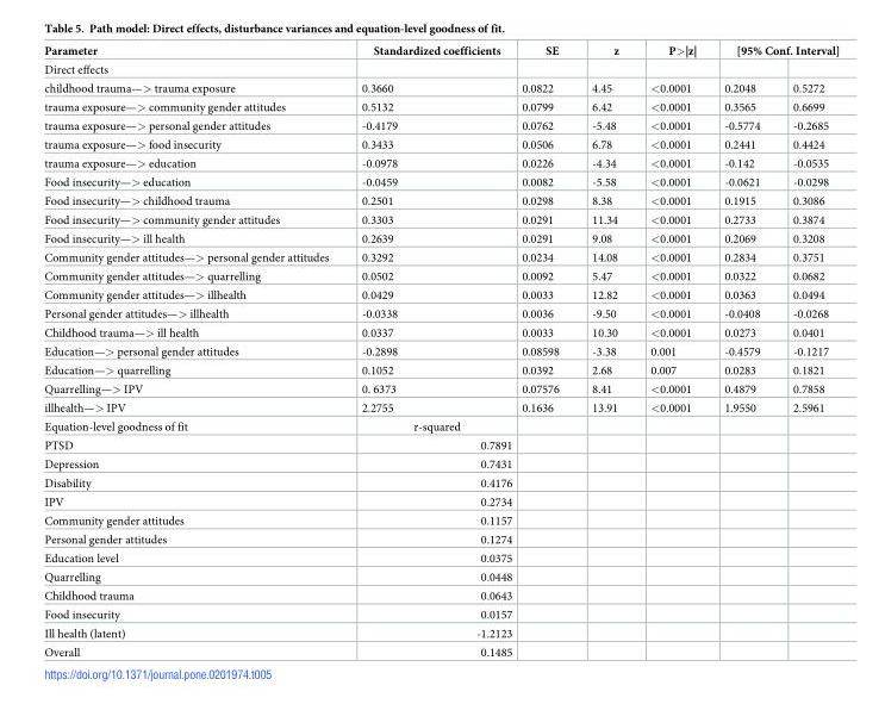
<table><thead><tr><td rowspan="2">Parameter Direct effects</td><td rowspan="2">Standardized coefficients</td><td rowspan="2">SE</td><td rowspan="2">z</td><td rowspan="2">P&gt;|z|</td><td colspan="2">[95% Conf. Interval]</td></tr><tr><td></td><td></td></tr></thead><tbody><tr><td>childhood trauma—&gt; trauma exposure</td><td>0.3660</td><td>0.0822</td><td>4.45</td><td>&lt;0.0001</td><td>0.2048</td><td>0.5272</td></tr><tr><td>trauma exposure—&gt; community gender attitudes</td><td>0.5132</td><td>0.0799</td><td>6.42</td><td>&lt;0.0001</td><td>0.3565</td><td>0.6699</td></tr><tr><td>trauma exposure—&gt; personal gender attitudes</td><td>-0.4179</td><td>0.0762</td><td>-5.48</td><td>&lt;0.0001</td><td>-0.5774</td><td>-0.2685</td></tr><tr><td>trauma exposure—&gt; food insecurity</td><td>0.3433</td><td>0.0506</td><td>6.78</td><td>&lt;0.0001</td><td>0.2441</td><td>0.4424</td></tr><tr><td>trauma exposure—&gt; education</td><td>-0.0978</td><td>0.0226</td><td>-4.34</td><td>&lt;0.0001</td><td>-0.142</td><td>-0.0535</td></tr><tr><td>Food insecurity—&gt; education</td><td>-0.0459</td><td>0.0082</td><td>-5.58</td><td>&lt;0.0001</td><td>-0.0621</td><td>-0.0298</td></tr><tr><td>Food insecurity—&gt; childhood trauma</td><td>0.2501</td><td>0.0298</td><td>8.38</td><td>&lt;0.0001</td><td>0.1915</td><td>0.3086</td></tr><tr><td>Food insecurity—&gt; community gender attitudes</td><td>0.3303</td><td>0.0291</td><td>11.34</td><td>&lt;0.0001</td><td>0.2733</td><td>0.3874</td></tr><tr><td>Food insecurity—&gt; ill health</td><td>0.2639</td><td>0.0291</td><td>9.08</td><td>&lt;0.0001</td><td>0.2069</td><td>0.3208</td></tr><tr><td>Community gender attitudes—&gt; personal gender attitudes</td><td>0.3292</td><td>0.0234</td><td>14.08</td><td>&lt;0.0001</td><td>0.2834</td><td>0.3751</td></tr><tr><td>Community gender attitudes—&gt; quarrelling</td><td>0.0502</td><td>0.0092</td><td>5.47</td><td>&lt;0.0001</td><td>0.0322</td><td>0.0682</td></tr><tr><td>Community gender attitudes—&gt; illhealth</td><td>0.0429</td><td>0.0033</td><td>12.82</td><td>&lt;0.0001</td><td>0.0363</td><td>0.0494</td></tr><tr><td>Personal gender attitudes—&gt; illhealth</td><td>-0.0338</td><td>0.0036</td><td>-9.50</td><td>&lt;0.0001</td><td>-0.0408</td><td>-0.0268</td></tr><tr><td>Childhood trauma—&gt; ill health</td><td>0.0337</td><td>0.0033</td><td>10.30</td><td>&lt;0.0001</td><td>0.0273</td><td>0.0401</td></tr><tr><td>Education—&gt; personal gender attitudes</td><td>-0.2898</td><td>0.08598</td><td>-3.38</td><td>0.001</td><td>-0.4579</td><td>-0.1217</td></tr><tr><td>Education—&gt; quarrelling</td><td>0.1052</td><td>0.0392</td><td>2.68</td><td>0.007</td><td>0.0283</td><td>0.1821</td></tr><tr><td>Quarrelling—&gt; IPV</td><td>0. 6373</td><td>0.07576</td><td>8.41</td><td>&lt;0.0001</td><td>0.4879</td><td>0.7858</td></tr><tr><td>illhealth—&gt; IPV</td><td>2.2755</td><td>0.1636</td><td>13.91</td><td>&lt;0.0001</td><td>1.9550</td><td>2.5961</td></tr><tr><td>Equation-level goodness of fit</td><td>r-squared</td><td></td><td></td><td></td><td></td><td></td></tr><tr><td>PTSD</td><td>0.7891</td><td></td><td></td><td></td><td></td><td></td></tr><tr><td>Depression</td><td>0.7431</td><td></td><td></td><td></td><td></td><td></td></tr><tr><td>Disability</td><td>0.4176</td><td></td><td></td><td></td><td></td><td></td></tr><tr><td>IPV</td><td>0.2734</td><td></td><td></td><td></td><td></td><td></td></tr><tr><td>Community gender attitudes</td><td>0.1157</td><td></td><td></td><td></td><td></td><td></td></tr><tr><td>Personal gender attitudes</td><td>0.1274</td><td></td><td></td><td></td><td></td><td></td></tr><tr><td>Education level</td><td>0.0375</td><td></td><td></td><td></td><td></td><td></td></tr><tr><td>Quarrelling</td><td>0.0448</td><td></td><td></td><td></td><td></td><td></td></tr><tr><td>Childhood trauma</td><td>0.0643</td><td></td><td></td><td></td><td></td><td></td></tr><tr><td>Food insecurity</td><td>0.0157</td><td></td><td></td><td></td><td></td><td></td></tr><tr><td>Ill health (latent)</td><td>-1.2123</td><td></td><td></td><td></td><td></td><td></td></tr><tr><td>Overall</td><td>0.1485</td><td></td><td></td><td></td><td></td><td></td></tr></tbody></table>